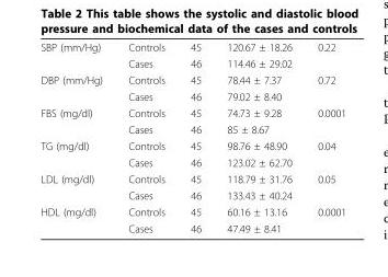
<table><tbody><tr><td rowspan="2">SBP (mm/Hg)</td><td>Controls</td><td>45</td><td>120.67 ± 18.26</td><td>0.22</td></tr><tr><td>Cases</td><td>46</td><td>114.46 ± 29.02</td><td></td></tr><tr><td rowspan="2">DBP (mm/Hg)</td><td>Controls</td><td>45</td><td>78.44 ± 7.37</td><td>0.72</td></tr><tr><td>Cases</td><td>46</td><td>79.02 ± 8.40</td><td></td></tr><tr><td rowspan="2">FBS (mg/dl)</td><td>Controls</td><td>45</td><td>74.73 ± 9.28</td><td>0.0001</td></tr><tr><td>Cases</td><td>46</td><td>85 ± 8.67</td><td></td></tr><tr><td rowspan="2">TG (mg/dl)</td><td>Controls</td><td>45</td><td>98.76 ± 48.90</td><td>0.04</td></tr><tr><td>Cases</td><td>46</td><td>123.02 ± 62.70</td><td></td></tr><tr><td rowspan="2">LDL (mg/dl)</td><td>Controls</td><td>45</td><td>118.79 ± 31.76</td><td>0.05</td></tr><tr><td>Cases</td><td>46</td><td>133.43 ± 40.24</td><td></td></tr><tr><td rowspan="2">HDL (mg/dl)</td><td>Controls</td><td>45</td><td>60.16 ± 13.16</td><td>0.0001</td></tr><tr><td>Cases</td><td>46</td><td>47.49 ± 8.41</td><td></td></tr></tbody></table>